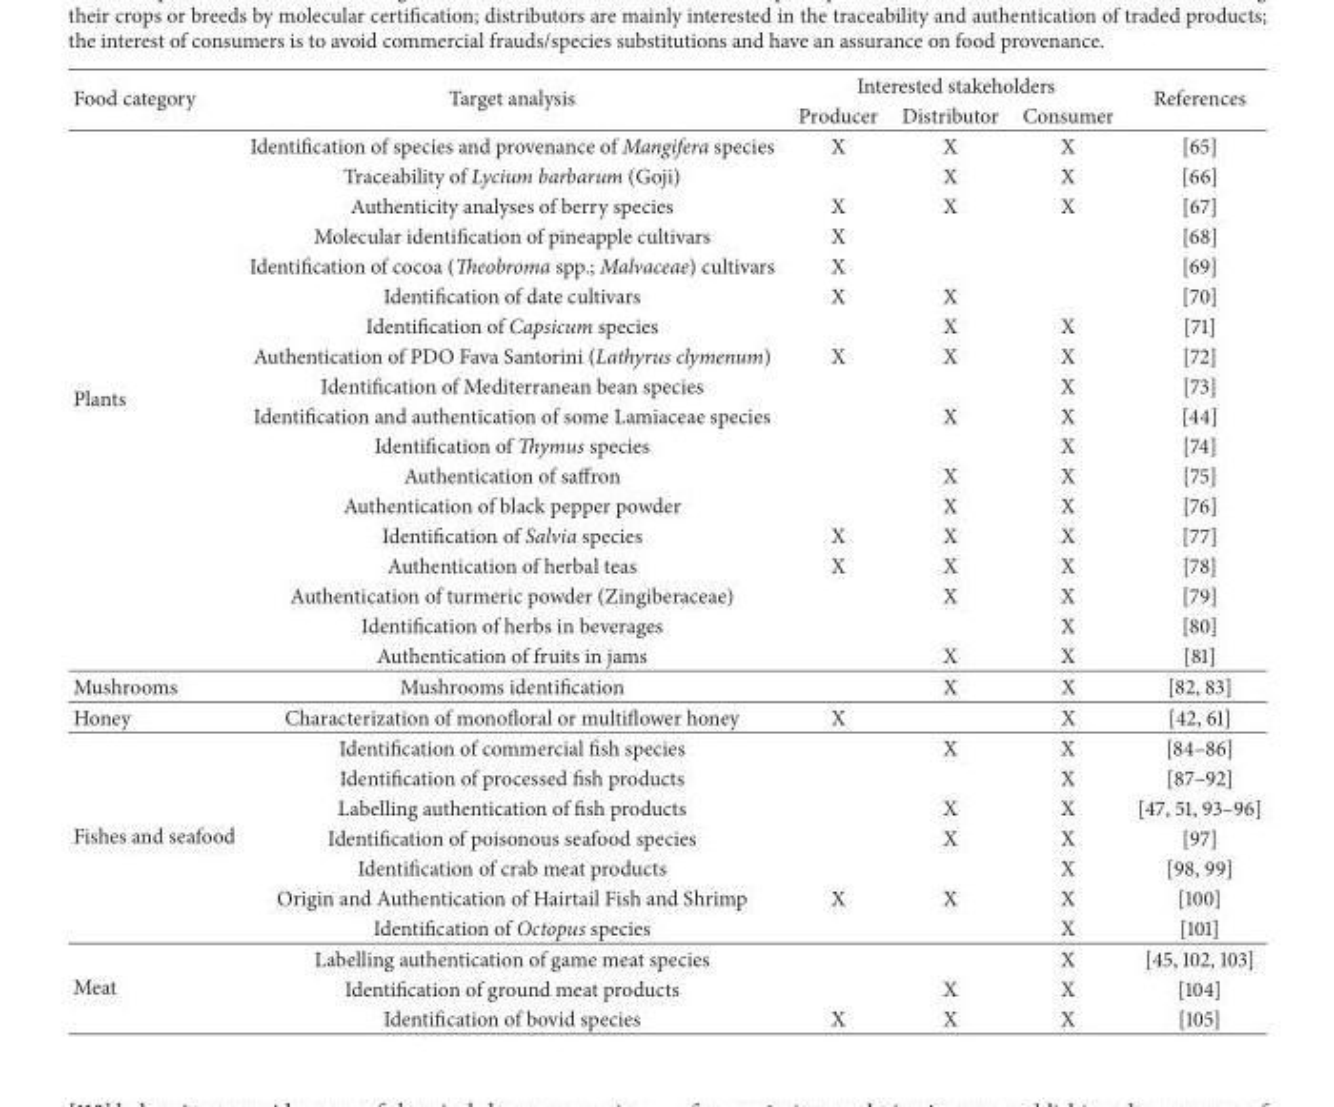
<table><thead><tr><td rowspan="2">Food category</td><td rowspan="2">Target analysis</td><td colspan="3">Interested stakeholders</td><td rowspan="2">References</td></tr><tr><td>Producer</td><td>Distributor</td><td>Consumer</td></tr></thead><tbody><tr><td rowspan="18">Plants</td><td>Identification of species and provenance of Mangifera species</td><td>X</td><td>X</td><td>X</td><td>[65]</td></tr><tr><td>Traceability of Lycium barbarum (Goji)</td><td></td><td>X</td><td>X</td><td>[66]</td></tr><tr><td>Authenticity analyses of berry species</td><td>X</td><td>X</td><td>X</td><td>[67]</td></tr><tr><td>Molecular identification of pineapple cultivars</td><td>X</td><td></td><td></td><td>[68]</td></tr><tr><td>Identification of cocoa (Theobroma spp.; Malvaceae) cultivars</td><td>X</td><td></td><td></td><td>[69]</td></tr><tr><td>Identification of date cultivars</td><td>X</td><td>X</td><td></td><td>[70]</td></tr><tr><td>Identification of Capsicum species</td><td></td><td>X</td><td>X</td><td>[71]</td></tr><tr><td>Authentication of PDO Fava Santorini (Lathyrus clymenum)</td><td>X</td><td>X</td><td>X</td><td>[72]</td></tr><tr><td>Identification of Mediterranean bean species</td><td></td><td></td><td>X</td><td>[73]</td></tr><tr><td>Identification and authentication of some Lamiaceae species</td><td></td><td>X</td><td>X</td><td>[44]</td></tr><tr><td>Identification of Thymus species</td><td></td><td></td><td>X</td><td>[74]</td></tr><tr><td>Authentication of saffron</td><td></td><td>X</td><td>X</td><td>[75]</td></tr><tr><td>Authentication of black pepper powder</td><td></td><td>X</td><td>X</td><td>[76]</td></tr><tr><td>Identification of Salvia species</td><td>X</td><td>X</td><td>X</td><td>[77]</td></tr><tr><td>Authentication of herbal teas</td><td>X</td><td>X</td><td>X</td><td>[78]</td></tr><tr><td>Authentication of turmeric powder (Zingiberaceae)</td><td></td><td>X</td><td>X</td><td>[79]</td></tr><tr><td>Identification of herbs in beverages</td><td></td><td></td><td>X</td><td>[80]</td></tr><tr><td>Authentication of fruits in jams</td><td></td><td>X</td><td>X</td><td>[81]</td></tr><tr><td>Mushrooms</td><td>Mushrooms identification</td><td></td><td>X</td><td>X</td><td>[82, 83]</td></tr><tr><td>Honey</td><td>Characterization of monofloral or multiflower honey</td><td>X</td><td></td><td>X</td><td>[42, 61]</td></tr><tr><td rowspan="7">Fishes and seafood</td><td>Identification of commercial fish species</td><td></td><td>X</td><td>X</td><td>[84–86]</td></tr><tr><td>Identification of processed fish products</td><td></td><td></td><td>X</td><td>[87–92]</td></tr><tr><td>Labelling authentication of fish products</td><td></td><td>X</td><td>X</td><td>[47, 51, 93–96]</td></tr><tr><td>Identification of poisonous seafood species</td><td></td><td>X</td><td>X</td><td>[97]</td></tr><tr><td>Identification of crab meat products</td><td></td><td></td><td>X</td><td>[98, 99]</td></tr><tr><td>Origin and Authentication of Hairtail Fish and Shrimp</td><td>X</td><td>X</td><td>X</td><td>[100]</td></tr><tr><td>Identification of Octopus species</td><td></td><td></td><td>X</td><td>[101]</td></tr><tr><td rowspan="3">Meat</td><td>Labelling authentication of game meat species</td><td></td><td></td><td>X</td><td>[45, 102, 103]</td></tr><tr><td>Identification of ground meat products</td><td></td><td>X</td><td>X</td><td>[104]</td></tr><tr><td>Identification of bovid species</td><td>X</td><td>X</td><td>X</td><td>[105]</td></tr></tbody></table>